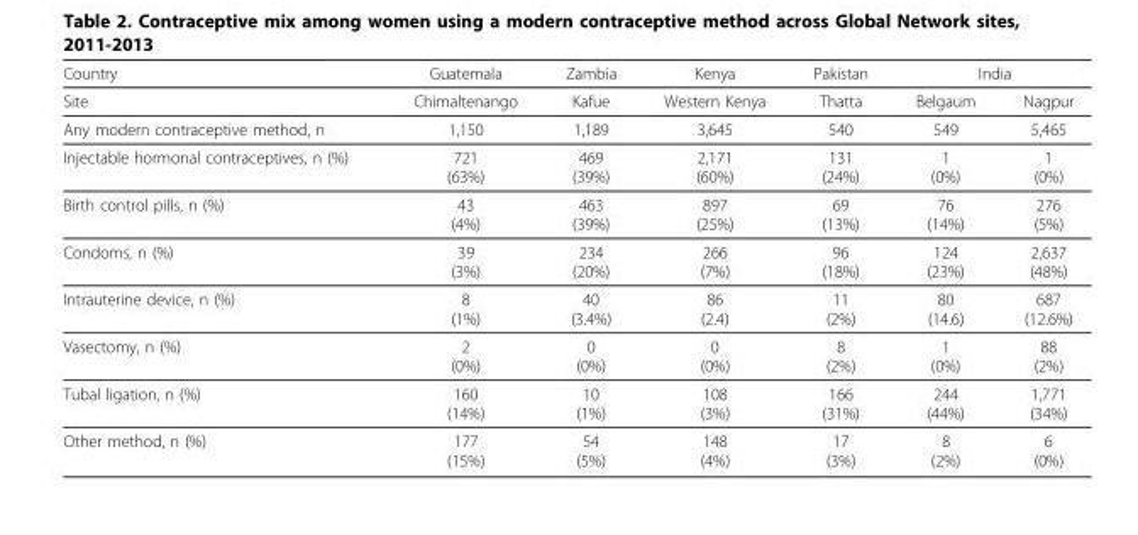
<table><thead><tr><td rowspan="2">Country Site</td><td rowspan="2">Guatemala Chimaltenango</td><td rowspan="2">Zambia Kafue</td><td rowspan="2">Kenya Western Kenya</td><td rowspan="2">Pakistan Thatta</td><td colspan="2">India</td></tr><tr><td>Belgaum</td><td>Nagpur</td></tr></thead><tbody><tr><td>Any modern contraceptive method, n</td><td>1,150</td><td>1,189</td><td>3,645</td><td>540</td><td>549</td><td>5,465</td></tr><tr><td>Injectable hormonal contraceptives, n (%)</td><td>721 (63%)</td><td>469 (39%)</td><td>2,171 (60%)</td><td>131 (24%)</td><td>1 (0%)</td><td>1 (0%)</td></tr><tr><td>Birth control pills, n (%)</td><td>43 (4%)</td><td>463 (39%)</td><td>897 (25%)</td><td>69 (13%)</td><td>76 (14%)</td><td>276 (5%)</td></tr><tr><td>Condoms, n (%)</td><td>39 (3%)</td><td>234 (20%)</td><td>266 (7%)</td><td>96 (18%)</td><td>124 (23%)</td><td>2,637 (48%)</td></tr><tr><td>Intrauterine device, n (%)</td><td>8 (1%)</td><td>40 (3.4%)</td><td>86 (2.4)</td><td>11 (2%)</td><td>80 (14.6)</td><td>687 (12.6%)</td></tr><tr><td>Vasectomy, n (%)</td><td>2 (0%)</td><td>0 (0%)</td><td>0 (0%)</td><td>8 (2%)</td><td>1 (0%)</td><td>88 (2%)</td></tr><tr><td>Tubal ligation, n (%)</td><td>160 (14%)</td><td>10 (1%)</td><td>108 (3%)</td><td>166 (31%)</td><td>244 (44%)</td><td>1,771 (34%)</td></tr><tr><td>Other method, n (%)</td><td>177 (15%)</td><td>54 (5%)</td><td>148 (4%)</td><td>17 (3%)</td><td>8 (2%)</td><td>6 (0%)</td></tr></tbody></table>